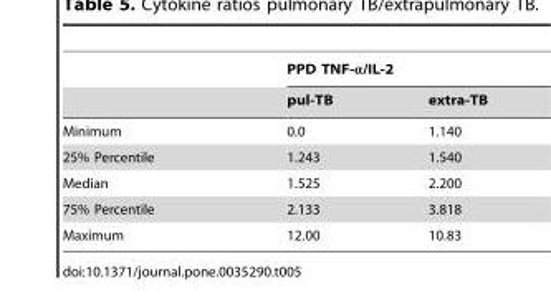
<table><thead><tr><td rowspan="2"></td><td colspan="2">PPD TNF-α/IL-2</td></tr><tr><td>pul-TB</td><td>extra-TB</td></tr></thead><tbody><tr><td>Minimum</td><td>0.0</td><td>1.140</td></tr><tr><td>25% Percentile</td><td>1.243</td><td>1.540</td></tr><tr><td>Median</td><td>1.525</td><td>2.200</td></tr><tr><td>75% Percentile</td><td>2.133</td><td>3.818</td></tr><tr><td>Maximum</td><td>12.00</td><td>10.83</td></tr></tbody></table>